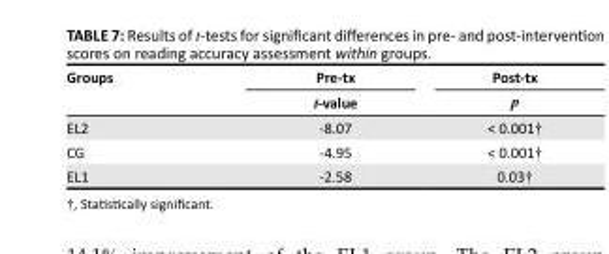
<table><thead><tr><td rowspan="2">Groups</td><td rowspan="2">Pre-tx t-value</td><td rowspan="2">Post-tx p</td></tr><tr></tr></thead><tbody><tr><td>EL2</td><td>-8.07</td><td>&lt; 0.001†</td></tr><tr><td>CG</td><td>-4.95</td><td>&lt; 0.001†</td></tr><tr><td>EL1</td><td>-2.58</td><td>0.03†</td></tr></tbody></table>